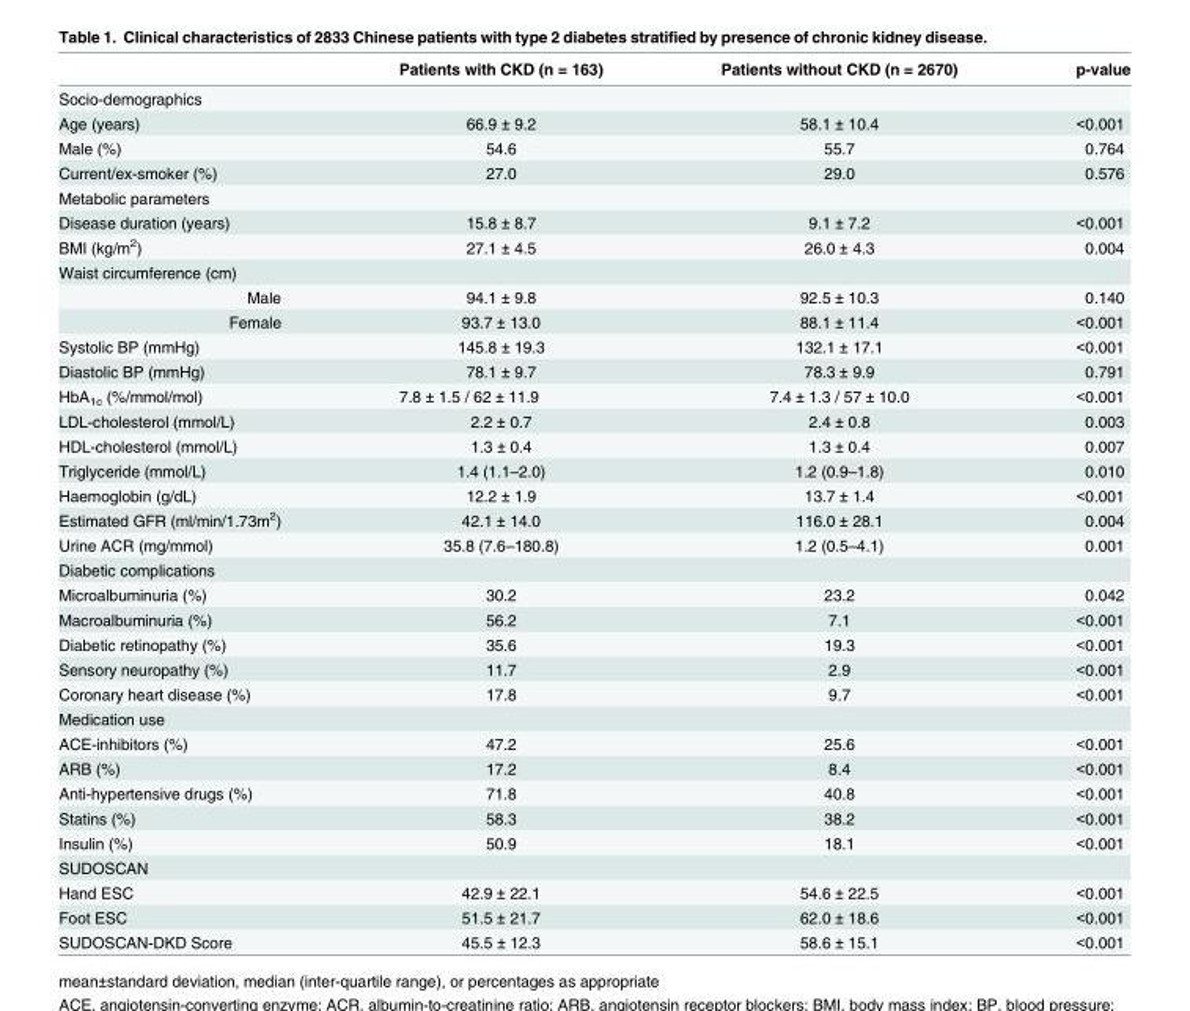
<table><thead><tr><td></td><td>Patients with CKD (n = 163)</td><td>Patients without CKD (n = 2670)</td><td>p-value</td></tr></thead><tbody><tr><td colspan="4">Socio-demographics</td></tr><tr><td>Age (years)</td><td>66.9 ± 9.2</td><td>58.1 ± 10.4</td><td>&lt;0.001</td></tr><tr><td>Male (%)</td><td>54.6</td><td>55.7</td><td>0.764</td></tr><tr><td>Current/ex-smoker (%)</td><td>27.0</td><td>29.0</td><td>0.576</td></tr><tr><td colspan="4">Metabolic parameters</td></tr><tr><td>Disease duration (years)</td><td>15.8 ± 8.7</td><td>9.1 ± 7.2</td><td>&lt;0.001</td></tr><tr><td>BMI (kg/m<sup>2</sup>)</td><td>27.1 ± 4.5</td><td>26.0 ± 4.3</td><td>0.004</td></tr><tr><td colspan="4">Waist circumference (cm)</td></tr><tr><td>Male</td><td>94.1 ± 9.8</td><td>92.5 ± 10.3</td><td>0.140</td></tr><tr><td>Female</td><td>93.7 ± 13.0</td><td>88.1 ± 11.4</td><td>&lt;0.001</td></tr><tr><td>Systolic BP (mmHg)</td><td>145.8 ± 19.3</td><td>132.1 ± 17.1</td><td>&lt;0.001</td></tr><tr><td>Diastolic BP (mmHg)</td><td>78.1 ± 9.7</td><td>78.3 ± 9.9</td><td>0.791</td></tr><tr><td>HbA<sub>1c</sub> (%/mmol/mol)</td><td>7.8 ± 1.5 / 62 ± 11.9</td><td>7.4 ± 1.3 / 57 ± 10.0</td><td>&lt;0.001</td></tr><tr><td>LDL-cholesterol (mmol/L)</td><td>2.2 ± 0.7</td><td>2.4 ± 0.8</td><td>0.003</td></tr><tr><td>HDL-cholesterol (mmol/L)</td><td>1.3 ± 0.4</td><td>1.3 ± 0.4</td><td>0.007</td></tr><tr><td>Triglyceride (mmol/L)</td><td>1.4 (1.1–2.0)</td><td>1.2 (0.9–1.8)</td><td>0.010</td></tr><tr><td>Haemoglobin (g/dL)</td><td>12.2 ± 1.9</td><td>13.7 ± 1.4</td><td>&lt;0.001</td></tr><tr><td>Estimated GFR (ml/min/1.73m<sup>2</sup>)</td><td>42.1 ± 14.0</td><td>116.0 ± 28.1</td><td>0.004</td></tr><tr><td>Urine ACR (mg/mmol)</td><td>35.8 (7.6–180.8)</td><td>1.2 (0.5–4.1)</td><td>0.001</td></tr><tr><td colspan="4">Diabetic complications</td></tr><tr><td>Microalbuminuria (%)</td><td>30.2</td><td>23.2</td><td>0.042</td></tr><tr><td>Macroalbuminuria (%)</td><td>56.2</td><td>7.1</td><td>&lt;0.001</td></tr><tr><td>Diabetic retinopathy (%)</td><td>35.6</td><td>19.3</td><td>&lt;0.001</td></tr><tr><td>Sensory neuropathy (%)</td><td>11.7</td><td>2.9</td><td>&lt;0.001</td></tr><tr><td>Coronary heart disease (%)</td><td>17.8</td><td>9.7</td><td>&lt;0.001</td></tr><tr><td colspan="4">Medication use</td></tr><tr><td>ACE-inhibitors (%)</td><td>47.2</td><td>25.6</td><td>&lt;0.001</td></tr><tr><td>ARB (%)</td><td>17.2</td><td>8.4</td><td>&lt;0.001</td></tr><tr><td>Anti-hypertensive drugs (%)</td><td>71.8</td><td>40.8</td><td>&lt;0.001</td></tr><tr><td>Statins (%)</td><td>58.3</td><td>38.2</td><td>&lt;0.001</td></tr><tr><td>Insulin (%)</td><td>50.9</td><td>18.1</td><td>&lt;0.001</td></tr><tr><td colspan="4">SUDOSCAN</td></tr><tr><td>Hand ESC</td><td>42.9 ± 22.1</td><td>54.6 ± 22.5</td><td>&lt;0.001</td></tr><tr><td>Foot ESC</td><td>51.5 ± 21.7</td><td>62.0 ± 18.6</td><td>&lt;0.001</td></tr><tr><td>SUDOSCAN-DKD Score</td><td>45.5 ± 12.3</td><td>58.6 ± 15.1</td><td>&lt;0.001</td></tr></tbody></table>